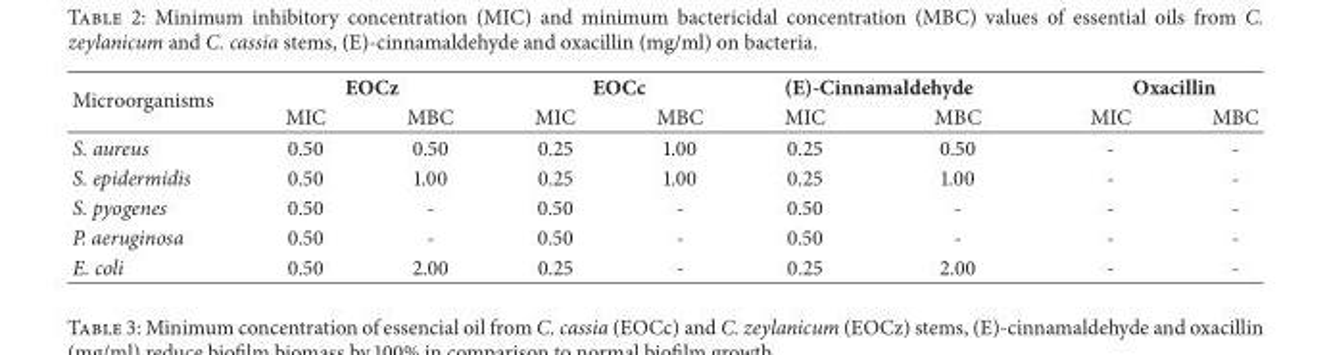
<table><thead><tr><td rowspan="2">Microorganisms</td><td colspan="2">EOCz</td><td colspan="2">EOCc</td><td colspan="2">(E)-Cinnamaldehyde</td><td colspan="2">Oxacillin</td></tr><tr><td>MIC</td><td>MBC</td><td>MIC</td><td>MBC</td><td>MIC</td><td>MBC</td><td>MIC</td><td>MBC</td></tr></thead><tbody><tr><td>S. aureus</td><td>0.50</td><td>0.50</td><td>0.25</td><td>1.00</td><td>0.25</td><td>0.50</td><td>-</td><td>-</td></tr><tr><td>S. epidermidis</td><td>0.50</td><td>1.00</td><td>0.25</td><td>1.00</td><td>0.25</td><td>1.00</td><td>-</td><td>-</td></tr><tr><td>S. pyogenes</td><td>0.50</td><td>-</td><td>0.50</td><td>-</td><td>0.50</td><td>-</td><td>-</td><td>-</td></tr><tr><td>P. aeruginosa</td><td>0.50</td><td>-</td><td>0.50</td><td>-</td><td>0.50</td><td>-</td><td>-</td><td>-</td></tr><tr><td>E. coli</td><td>0.50</td><td>2.00</td><td>0.25</td><td>-</td><td>0.25</td><td>2.00</td><td>-</td><td>-</td></tr></tbody></table>